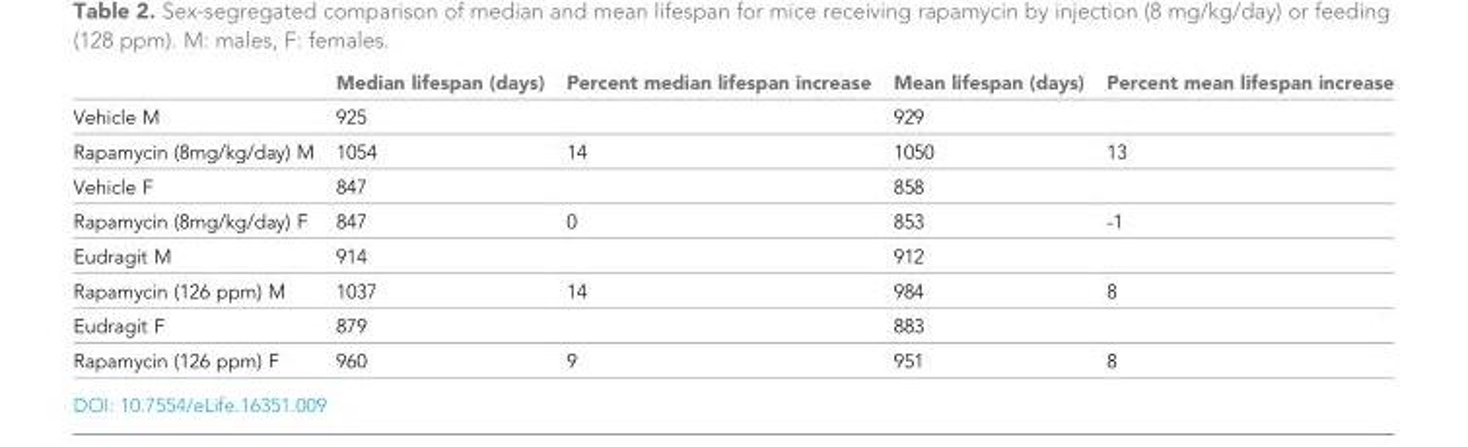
<table><thead><tr><td></td><td>Median lifespan (days)</td><td>Percent median lifespan increase</td><td>Mean lifespan (days)</td><td>Percent mean lifespan increase</td></tr></thead><tbody><tr><td>Vehicle M</td><td>925</td><td></td><td>929</td><td></td></tr><tr><td>Rapamycin (8mg/kg/day) M</td><td>1054</td><td>14</td><td>1050</td><td>13</td></tr><tr><td>Vehicle F</td><td>847</td><td></td><td>858</td><td></td></tr><tr><td>Rapamycin (8mg/kg/day) F</td><td>847</td><td>0</td><td>853</td><td>-1</td></tr><tr><td>Eudragit M</td><td>914</td><td></td><td>912</td><td></td></tr><tr><td>Rapamycin (126 ppm) M</td><td>1037</td><td>14</td><td>984</td><td>8</td></tr><tr><td>Eudragit F</td><td>879</td><td></td><td>883</td><td></td></tr><tr><td>Rapamycin (126 ppm) F</td><td>960</td><td>9</td><td>951</td><td>8</td></tr></tbody></table>